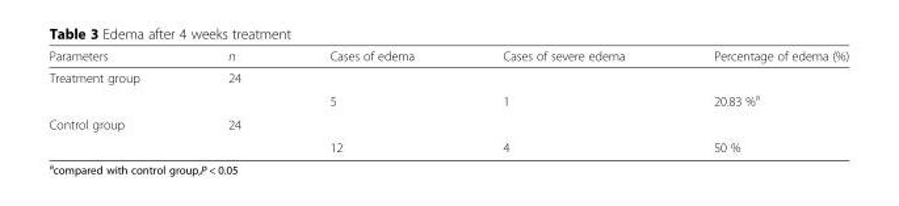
<table><thead><tr><td>Parameters</td><td>n</td><td>Cases of edema</td><td>Cases of severe edema</td><td>Percentage of edema (%)</td></tr></thead><tbody><tr><td rowspan="2">Treatment group</td><td>24</td><td></td><td></td><td></td></tr><tr><td></td><td>5</td><td>1</td><td>20.83 %<sup>a</sup></td></tr><tr><td rowspan="2">Control group</td><td>24</td><td></td><td></td><td></td></tr><tr><td></td><td>12</td><td>4</td><td>50 %</td></tr></tbody></table>